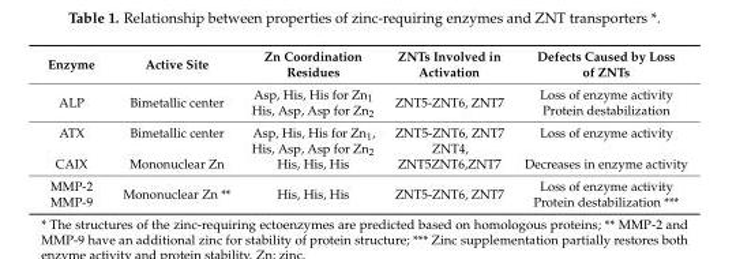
<table><thead><tr><td>Enzyme</td><td>Active Site</td><td>Zn Coordination Residues</td><td>ZNTs Involved in Activation</td><td>Defects Caused by Loss of ZNTs</td></tr></thead><tbody><tr><td>ALP</td><td>Bimetallic center</td><td>Asp, His, His for Zn<sub>1</sub> His, Asp, Asp for Zn<sub>2</sub></td><td>ZNT5-ZNT6, ZNT7</td><td>Loss of enzyme activity Protein destabilization</td></tr><tr><td>ATX CAIX</td><td>Bimetallic center Mononuclear Zn</td><td>Asp, His, His for Zn<sub>1</sub>, His, Asp, Asp for Zn<sub>2</sub> His, His, His</td><td>ZNT5-ZNT6, ZNT7 ZNT4, ZNT5ZNT6,ZNT7</td><td>Loss of enzyme activity Decreases in enzyme activity</td></tr><tr><td>MMP-2 MMP-9</td><td>Mononuclear Zn **</td><td>His, His, His</td><td>ZNT5-ZNT6, ZNT7</td><td>Loss of enzyme activity Protein destabilization ***</td></tr></tbody></table>